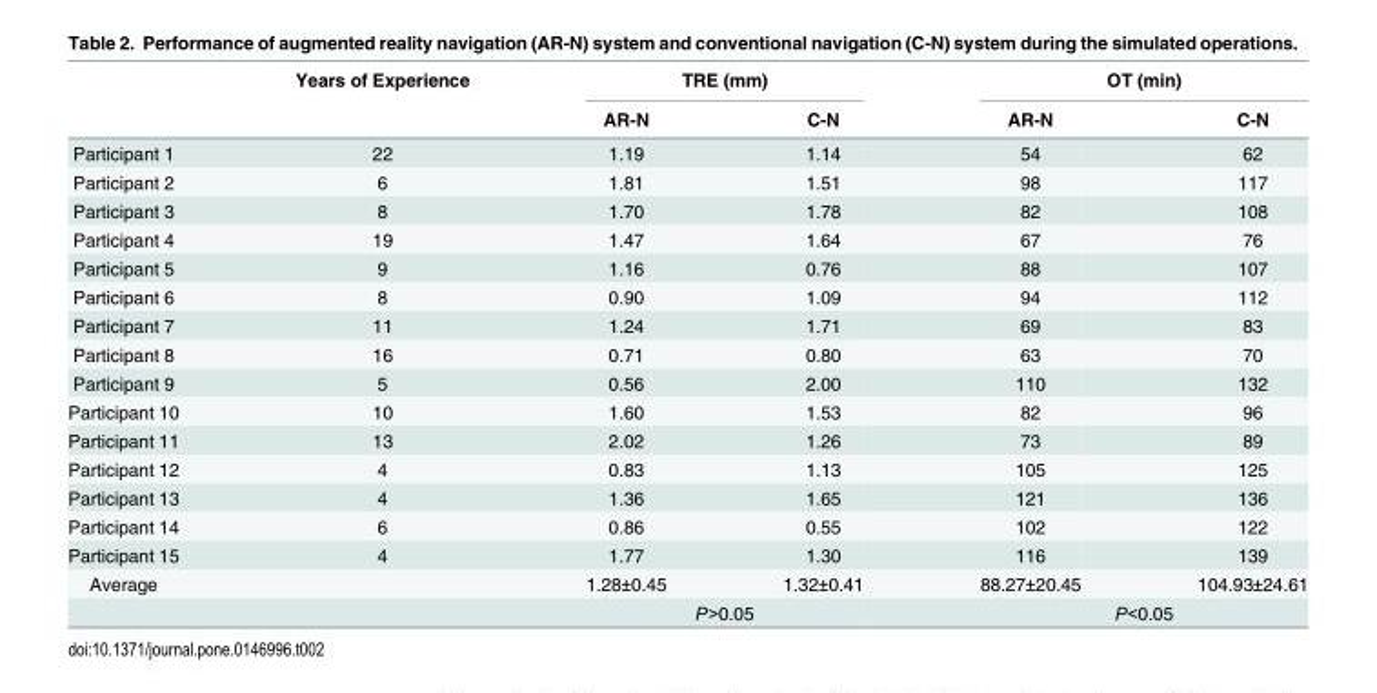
<table><thead><tr><td rowspan="2"></td><td rowspan="2">Years of Experience</td><td colspan="2">TRE (mm)</td><td colspan="2">OT (min)</td></tr><tr><td>AR-N</td><td>C-N</td><td>AR-N</td><td>C-N</td></tr></thead><tbody><tr><td>Participant 1</td><td>22</td><td>1.19</td><td>1.14</td><td>54</td><td>62</td></tr><tr><td>Participant 2</td><td>6</td><td>1.81</td><td>1.51</td><td>98</td><td>117</td></tr><tr><td>Participant 3</td><td>8</td><td>1.70</td><td>1.78</td><td>82</td><td>108</td></tr><tr><td>Participant 4</td><td>19</td><td>1.47</td><td>1.64</td><td>67</td><td>76</td></tr><tr><td>Participant 5</td><td>9</td><td>1.16</td><td>0.76</td><td>88</td><td>107</td></tr><tr><td>Participant 6</td><td>8</td><td>0.90</td><td>1.09</td><td>94</td><td>112</td></tr><tr><td>Participant 7</td><td>11</td><td>1.24</td><td>1.71</td><td>69</td><td>83</td></tr><tr><td>Participant 8</td><td>16</td><td>0.71</td><td>0.80</td><td>63</td><td>70</td></tr><tr><td>Participant 9</td><td>5</td><td>0.56</td><td>2.00</td><td>110</td><td>132</td></tr><tr><td>Participant 10</td><td>10</td><td>1.60</td><td>1.53</td><td>82</td><td>96</td></tr><tr><td>Participant 11</td><td>13</td><td>2.02</td><td>1.26</td><td>73</td><td>89</td></tr><tr><td>Participant 12</td><td>4</td><td>0.83</td><td>1.13</td><td>105</td><td>125</td></tr><tr><td>Participant 13</td><td>4</td><td>1.36</td><td>1.65</td><td>121</td><td>136</td></tr><tr><td>Participant 14</td><td>6</td><td>0.86</td><td>0.55</td><td>102</td><td>122</td></tr><tr><td>Participant 15</td><td>4</td><td>1.77</td><td>1.30</td><td>116</td><td>139</td></tr><tr><td rowspan="2">Average</td><td></td><td>1.28±0.45</td><td>1.32±0.41</td><td>88.27±20.45</td><td>104.93±24.61</td></tr><tr><td></td><td colspan="2">P&gt;0.05</td><td colspan="2">P&lt;0.05</td></tr></tbody></table>